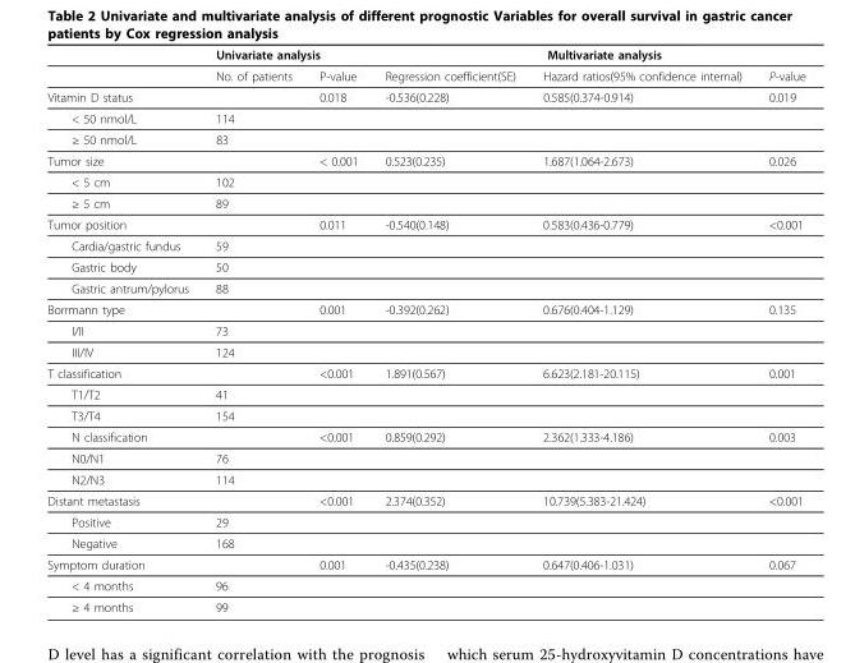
<table><thead><tr><td rowspan="2"></td><td colspan="2">Univariate analysis</td><td colspan="3">Multivariate analysis</td></tr><tr><td>No. of patients</td><td>P-value</td><td>Regression coefficient(SE)</td><td>Hazard ratios(95% confidence internal)</td><td>P-value</td></tr></thead><tbody><tr><td>Vitamin D status</td><td></td><td>0.018</td><td>-0.536(0.228)</td><td>0.585(0.374-0.914)</td><td>0.019</td></tr><tr><td>&lt; 50 nmol/L</td><td>114</td><td></td><td></td><td></td><td></td></tr><tr><td>≥ 50 nmol/L</td><td>83</td><td></td><td></td><td></td><td></td></tr><tr><td>Tumor size</td><td></td><td>&lt; 0.001</td><td>0.523(0.235)</td><td>1.687(1.064-2.673)</td><td>0.026</td></tr><tr><td>&lt; 5 cm</td><td>102</td><td></td><td></td><td></td><td></td></tr><tr><td>≥ 5 cm</td><td>89</td><td></td><td></td><td></td><td></td></tr><tr><td>Tumor position</td><td></td><td>0.011</td><td>-0.540(0.148)</td><td>0.583(0.436-0.779)</td><td>&lt;0.001</td></tr><tr><td>Cardia/gastric fundus</td><td>59</td><td></td><td></td><td></td><td></td></tr><tr><td>Gastric body</td><td>50</td><td></td><td></td><td></td><td></td></tr><tr><td>Gastric antrum/pylorus</td><td>88</td><td></td><td></td><td></td><td></td></tr><tr><td>Borrmann type</td><td></td><td>0.001</td><td>-0.392(0.262)</td><td>0.676(0.404-1.129)</td><td>0.135</td></tr><tr><td>I/II</td><td>73</td><td></td><td></td><td></td><td></td></tr><tr><td>III/IV</td><td>124</td><td></td><td></td><td></td><td></td></tr><tr><td>T classification</td><td></td><td>&lt;0.001</td><td>1.891(0.567)</td><td>6.623(2.181-20.115)</td><td>0.001</td></tr><tr><td>T1/T2</td><td>41</td><td></td><td></td><td></td><td></td></tr><tr><td>T3/T4</td><td>154</td><td></td><td></td><td></td><td></td></tr><tr><td>N classification</td><td></td><td>&lt;0.001</td><td>0.859(0.292)</td><td>2.362(1.333-4.186)</td><td>0.003</td></tr><tr><td>N0/N1</td><td>76</td><td></td><td></td><td></td><td></td></tr><tr><td>N2/N3</td><td>114</td><td></td><td></td><td></td><td></td></tr><tr><td>Distant metastasis</td><td></td><td>&lt;0.001</td><td>2.374(0.352)</td><td>10.739(5.383-21.424)</td><td>&lt;0.001</td></tr><tr><td>Positive</td><td>29</td><td></td><td></td><td></td><td></td></tr><tr><td>Negative</td><td>168</td><td></td><td></td><td></td><td></td></tr><tr><td>Symptom duration</td><td></td><td>0.001</td><td>-0.435(0.238)</td><td>0.647(0.406-1.031)</td><td>0.067</td></tr><tr><td>&lt; 4 months</td><td>96</td><td></td><td></td><td></td><td></td></tr><tr><td>≥ 4 months</td><td>99</td><td></td><td></td><td></td><td></td></tr></tbody></table>